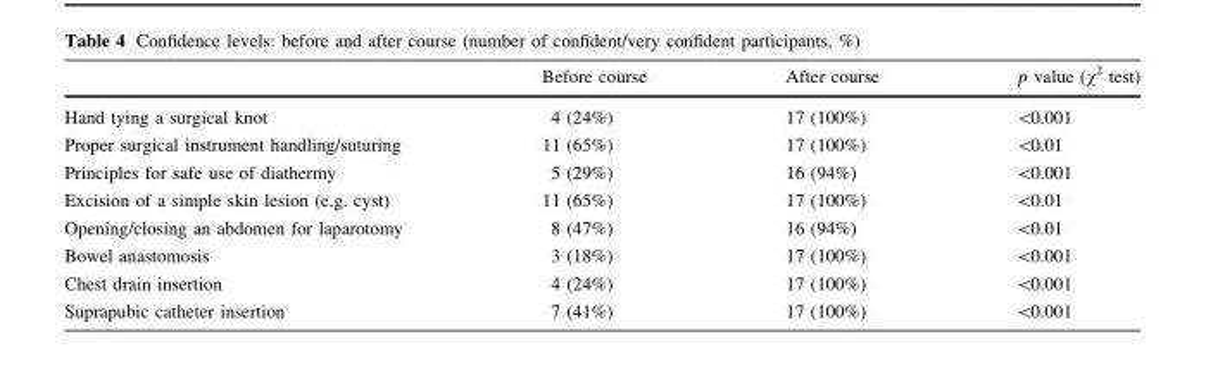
<table><thead><tr><td></td><td>Before course</td><td>After course</td><td>p value (χ<sup>2</sup> test)</td></tr></thead><tbody><tr><td>Hand tying a surgical knot</td><td>4 (24%)</td><td>17 (100%)</td><td>&lt;0.001</td></tr><tr><td>Proper surgical instrument handling/suturing</td><td>11 (65%)</td><td>17 (100%)</td><td>&lt;0.01</td></tr><tr><td>Principles for safe use of diathermy</td><td>5 (29%)</td><td>16 (94%)</td><td>&lt;0.001</td></tr><tr><td>Excision of a simple skin lesion (e.g. cyst)</td><td>11 (65%)</td><td>17 (100%)</td><td>&lt;0.01</td></tr><tr><td>Opening/closing an abdomen for laparotomy</td><td>8 (47%)</td><td>16 (94%)</td><td>&lt;0.01</td></tr><tr><td>Bowel anastomosis</td><td>3 (18%)</td><td>17 (100%)</td><td>&lt;0.001</td></tr><tr><td>Chest drain insertion</td><td>4 (24%)</td><td>17 (100%)</td><td>&lt;0.001</td></tr><tr><td>Suprapubic catheter insertion</td><td>7 (41%)</td><td>17 (100%)</td><td>&lt;0.001</td></tr></tbody></table>